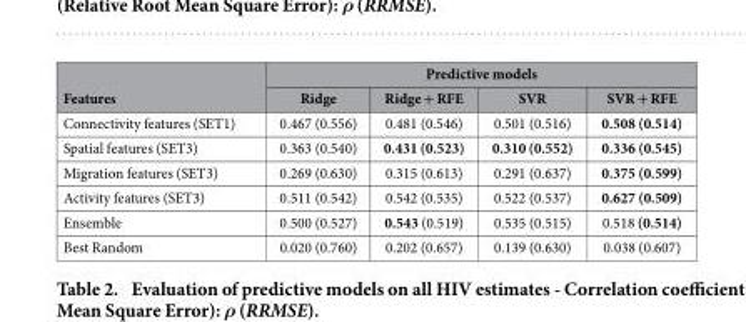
<table><thead><tr><td rowspan="2">Features</td><td colspan="4">Predictive models</td></tr><tr><td>Ridge</td><td>Ridge + RFE</td><td>SVR</td><td>SVR + RFE</td></tr></thead><tbody><tr><td>Connectivity features (SET1)</td><td>0.467 (0.556)</td><td>0.481 (0.546)</td><td>0.501 (0.516)</td><td>0.508 (0.514)</td></tr><tr><td>Spatial features (SET3)</td><td>0.363 (0.540)</td><td>0.431 (0.523)</td><td>0.310 (0.552)</td><td>0.336 (0.545)</td></tr><tr><td>Migration features (SET3)</td><td>0.269 (0.630)</td><td>0.315 (0.613)</td><td>0.291 (0.637)</td><td>0.375 (0.599)</td></tr><tr><td>Activity features (SET3)</td><td>0.511 (0.542)</td><td>0.542 (0.535)</td><td>0.522 (0.537)</td><td>0.627 (0.509)</td></tr><tr><td>Ensemble</td><td>0.500 (0.527)</td><td>0.543 (0.519)</td><td>0.535 (0.515)</td><td>0.518 (0.514)</td></tr><tr><td>Best Random</td><td>0.020 (0.760)</td><td>0.202 (0.657)</td><td>0.139 (0.630)</td><td>0.038 (0.607)</td></tr></tbody></table>